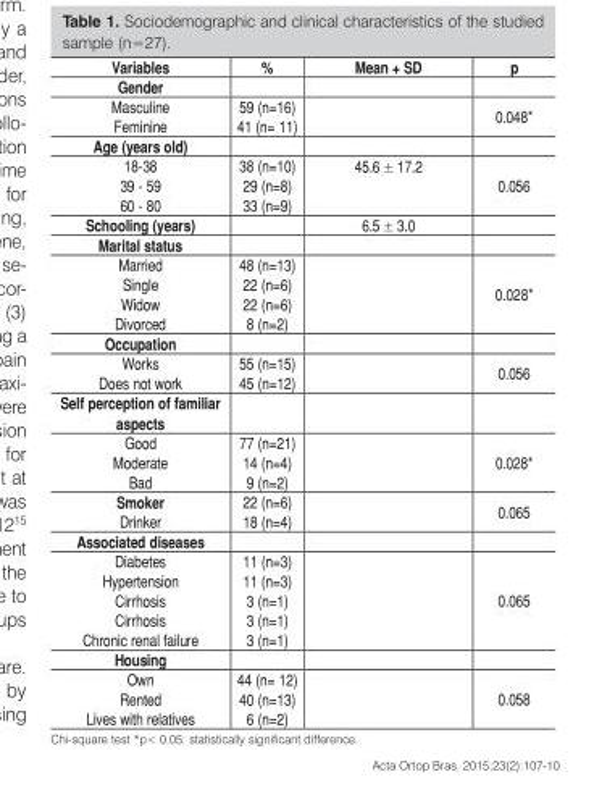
<table><thead><tr><td>Variables</td><td>%</td><td>Mean + SD</td><td>p</td></tr></thead><tbody><tr><td colspan="4">Gender</td></tr><tr><td>Masculine</td><td>59 (n=16)</td><td></td><td rowspan="2">0.048*</td></tr><tr><td>Feminine</td><td>41 (n= 11)</td><td></td></tr><tr><td colspan="4">Age (years old)</td></tr><tr><td>18-38</td><td>38 (n=10)</td><td>45.6 ± 17.2</td><td rowspan="3">0.056</td></tr><tr><td>39 - 59</td><td>29 (n=8)</td><td></td></tr><tr><td>60 - 80</td><td>33 (n=9)</td><td></td></tr><tr><td>Schooling (years)</td><td></td><td>6.5 ± 3.0</td><td></td></tr><tr><td colspan="4">Marital status</td></tr><tr><td>Married</td><td>48 (n=13)</td><td></td><td rowspan="4">0.028*</td></tr><tr><td>Single</td><td>22 (n=6)</td><td></td></tr><tr><td>Widow</td><td>22 (n=6)</td><td></td></tr><tr><td>Divorced</td><td>8 (n=2)</td><td></td></tr><tr><td colspan="4">Occupation</td></tr><tr><td>Works</td><td>55 (n=15)</td><td></td><td rowspan="2">0.056</td></tr><tr><td>Does not work</td><td>45 (n=12)</td><td></td></tr><tr><td colspan="4">Self perception of familiar aspects</td></tr><tr><td>Good</td><td>77 (n=21)</td><td></td><td rowspan="3">0.028*</td></tr><tr><td>Moderate</td><td>14 (n=4)</td><td></td></tr><tr><td>Bad</td><td>9 (n=2)</td><td></td></tr><tr><td>Smoker</td><td>22 (n=6)</td><td></td><td rowspan="2">0.065</td></tr><tr><td>Drinker</td><td>18 (n=4)</td><td></td></tr><tr><td colspan="4">Associated diseases</td></tr><tr><td>Diabetes</td><td>11 (n=3)</td><td></td><td rowspan="5">0.065</td></tr><tr><td>Hypertension</td><td>11 (n=3)</td><td></td></tr><tr><td>Cirrhosis</td><td>3 (n=1)</td><td></td></tr><tr><td>Cirrhosis</td><td>3 (n=1)</td><td></td></tr><tr><td>Chronic renal failure</td><td>3 (n=1)</td><td></td></tr><tr><td colspan="4">Housing</td></tr><tr><td>Own</td><td>44 (n= 12)</td><td></td><td rowspan="3">0.058</td></tr><tr><td>Rented</td><td>40 (n=13)</td><td></td></tr><tr><td>Lives with relatives</td><td>6 (n=2)</td><td></td></tr></tbody></table>